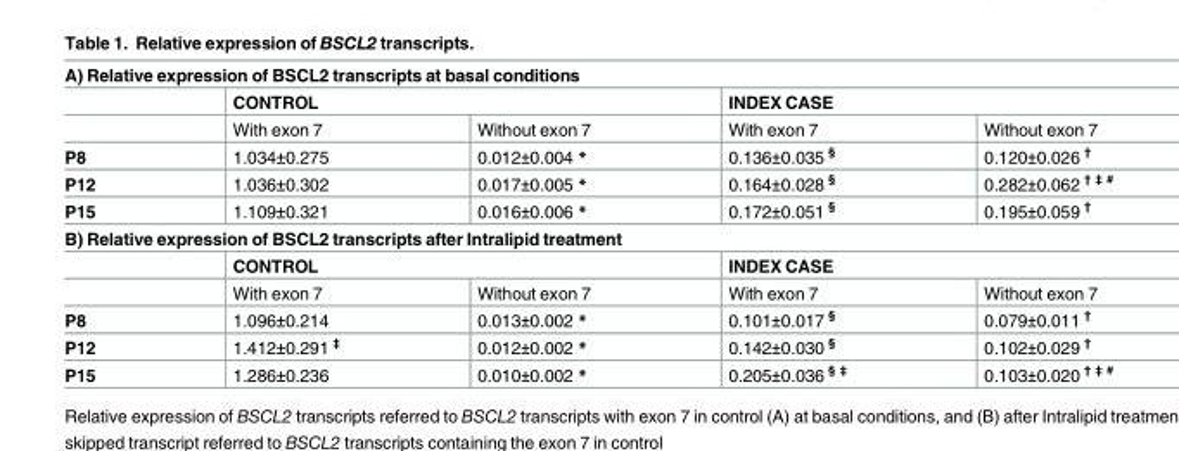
<table><tbody><tr><td colspan="5">A) Relative expression of BSCL2 transcripts at basal conditions</td></tr><tr><td></td><td colspan="2">CONTROL</td><td colspan="2">INDEX CASE</td></tr><tr><td></td><td>With exon 7</td><td>Without exon 7</td><td>With exon 7</td><td>Without exon 7</td></tr><tr><td>P8</td><td>1.034±0.275</td><td>0.012±0.004 *</td><td>0.136±0.035 <sup>§</sup></td><td>0.120±0.026 <sup>†</sup></td></tr><tr><td>P12</td><td>1.036±0.302</td><td>0.017±0.005 *</td><td>0.164±0.028 <sup>§</sup></td><td>0.282±0.062 <sup>† ‡ #</sup></td></tr><tr><td>P15</td><td>1.109±0.321</td><td>0.016±0.006 *</td><td>0.172±0.051 <sup>§</sup></td><td>0.195±0.059 <sup>†</sup></td></tr><tr><td colspan="5">B) Relative expression of BSCL2 transcripts after Intralipid treatment</td></tr><tr><td></td><td colspan="2">CONTROL</td><td colspan="2">INDEX CASE</td></tr><tr><td></td><td>With exon 7</td><td>Without exon 7</td><td>With exon 7</td><td>Without exon 7</td></tr><tr><td>P8</td><td>1.096±0.214</td><td>0.013±0.002 *</td><td>0.101±0.017 <sup>§</sup></td><td>0.079±0.011 <sup>†</sup></td></tr><tr><td>P12</td><td>1.412±0.291 <sup>‡</sup></td><td>0.012±0.002 *</td><td>0.142±0.030 <sup>§</sup></td><td>0.102±0.029 <sup>†</sup></td></tr><tr><td>P15</td><td>1.286±0.236</td><td>0.010±0.002 *</td><td>0.205±0.036 <sup>§ ‡</sup></td><td>0.103±0.020 <sup>† ‡ #</sup></td></tr></tbody></table>